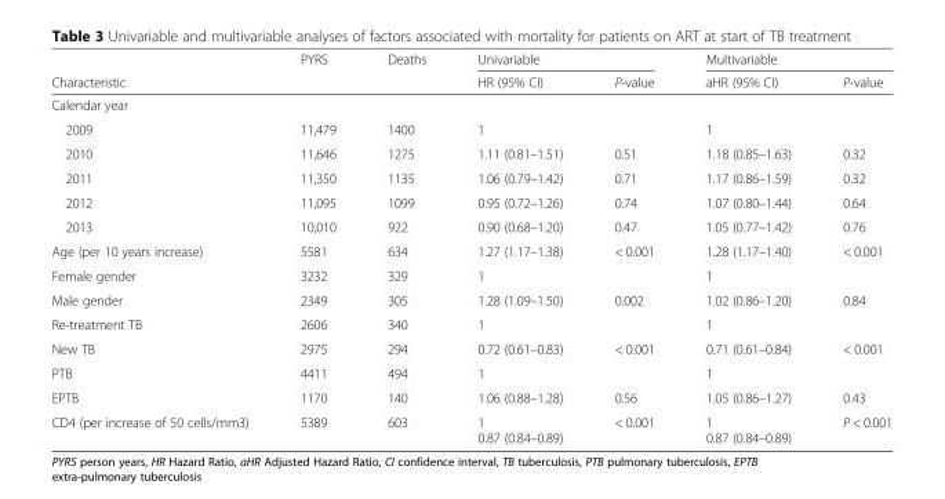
<table><thead><tr><td rowspan="2">Characteristic</td><td rowspan="2">PYRS</td><td rowspan="2">Deaths</td><td colspan="2">Univariable</td><td colspan="2">Multivariable</td></tr><tr><td>HR (95% CI)</td><td>P-value</td><td>aHR (95% CI)</td><td>P-value</td></tr></thead><tbody><tr><td colspan="7">Calendar year</td></tr><tr><td>2009</td><td>11,479</td><td>1400</td><td>1</td><td></td><td>1</td><td></td></tr><tr><td>2010</td><td>11,646</td><td>1275</td><td>1.11 (0.81–1.51)</td><td>0.51</td><td>1.18 (0.85–1.63)</td><td>0.32</td></tr><tr><td>2011</td><td>11,350</td><td>1135</td><td>1.06 (0.79–1.42)</td><td>0.71</td><td>1.17 (0.86–1.59)</td><td>0.32</td></tr><tr><td>2012</td><td>11,095</td><td>1099</td><td>0.95 (0.72–1.26)</td><td>0.74</td><td>1.07 (0.80–1.44)</td><td>0.64</td></tr><tr><td>2013</td><td>10,010</td><td>922</td><td>0.90 (0.68–1.20)</td><td>0.47</td><td>1.05 (0.77–1.42)</td><td>0.76</td></tr><tr><td>Age (per 10 years increase)</td><td>5581</td><td>634</td><td>1.27 (1.17–1.38)</td><td>&lt; 0.001</td><td>1.28 (1.17–1.40)</td><td>&lt; 0.001</td></tr><tr><td>Female gender</td><td>3232</td><td>329</td><td>1</td><td></td><td>1</td><td></td></tr><tr><td>Male gender</td><td>2349</td><td>305</td><td>1.28 (1.09–1.50)</td><td>0.002</td><td>1.02 (0.86–1.20)</td><td>0.84</td></tr><tr><td>Re-treatment TB</td><td>2606</td><td>340</td><td>1</td><td></td><td>1</td><td></td></tr><tr><td>New TB</td><td>2975</td><td>294</td><td>0.72 (0.61–0.83)</td><td>&lt; 0.001</td><td>0.71 (0.61–0.84)</td><td>&lt; 0.001</td></tr><tr><td>PTB</td><td>4411</td><td>494</td><td>1</td><td></td><td>1</td><td></td></tr><tr><td>EPTB</td><td>1170</td><td>140</td><td>1.06 (0.88–1.28)</td><td>0.56</td><td>1.05 (0.86–1.27)</td><td>0.43</td></tr><tr><td>CD4 (per increase of 50 cells/mm3)</td><td>5389</td><td>603</td><td>1 0.87 (0.84–0.89)</td><td>&lt; 0.001</td><td>1 0.87 (0.84–0.89)</td><td>P &lt; 0.001</td></tr></tbody></table>